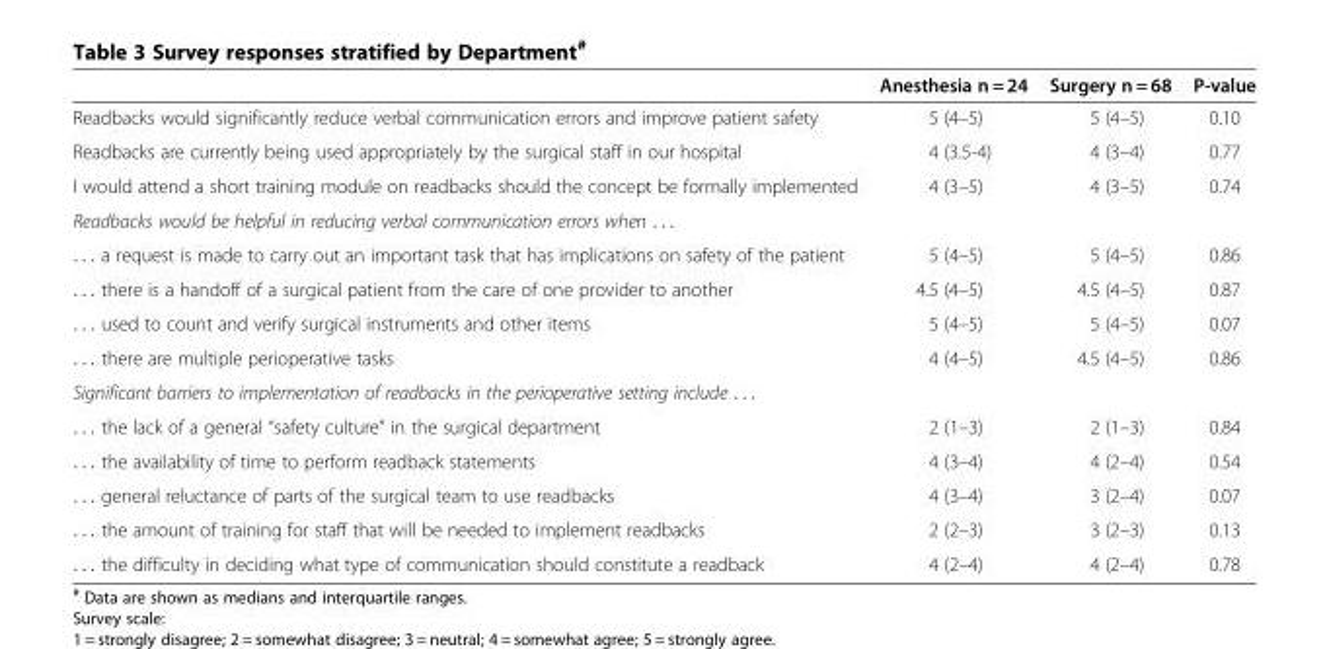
<table><thead><tr><td></td><td>Anesthesia n = 24</td><td>Surgery n = 68</td><td>P-value</td></tr></thead><tbody><tr><td>Readbacks would significantly reduce verbal communication errors and improve patient safety</td><td>5 (4–5)</td><td>5 (4–5)</td><td>0.10</td></tr><tr><td>Readbacks are currently being used appropriately by the surgical staff in our hospital</td><td>4 (3.5-4)</td><td>4 (3–4)</td><td>0.77</td></tr><tr><td>I would attend a short training module on readbacks should the concept be formally implemented</td><td>4 (3–5)</td><td>4 (3–5)</td><td>0.74</td></tr><tr><td colspan="4">Readbacks would be helpful in reducing verbal communication errors when . . .</td></tr><tr><td>. . . a request is made to carry out an important task that has implications on safety of the patient</td><td>5 (4–5)</td><td>5 (4–5)</td><td>0.86</td></tr><tr><td>. . . there is a handoff of a surgical patient from the care of one provider to another</td><td>4.5 (4–5)</td><td>4.5 (4–5)</td><td>0.87</td></tr><tr><td>. . . used to count and verify surgical instruments and other items</td><td>5 (4–5)</td><td>5 (4–5)</td><td>0.07</td></tr><tr><td>. . . there are multiple perioperative tasks</td><td>4 (4–5)</td><td>4.5 (4–5)</td><td>0.86</td></tr><tr><td colspan="4">Significant barriers to implementation of readbacks in the perioperative setting include . . .</td></tr><tr><td>. . . the lack of a general “safety culture” in the surgical department</td><td>2 (1–3)</td><td>2 (1–3)</td><td>0.84</td></tr><tr><td>. . . the availability of time to perform readback statements</td><td>4 (3–4)</td><td>4 (2–4)</td><td>0.54</td></tr><tr><td>. . . general reluctance of parts of the surgical team to use readbacks</td><td>4 (3–4)</td><td>3 (2–4)</td><td>0.07</td></tr><tr><td>. . . the amount of training for staff that will be needed to implement readbacks</td><td>2 (2–3)</td><td>3 (2–3)</td><td>0.13</td></tr><tr><td>. . . the difficulty in deciding what type of communication should constitute a readback</td><td>4 (2–4)</td><td>4 (2–4)</td><td>0.78</td></tr></tbody></table>